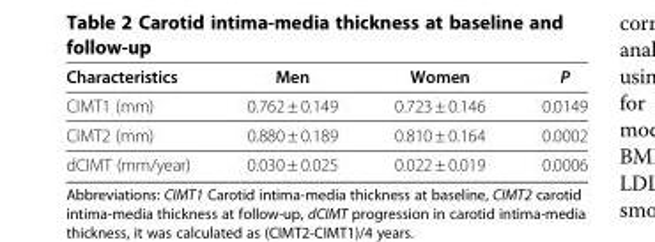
<table><thead><tr><td>Characteristics</td><td>Men</td><td>Women</td><td>P</td></tr></thead><tbody><tr><td>CIMT1 (mm)</td><td>0.762 ± 0.149</td><td>0.723 ± 0.146</td><td>0.0149</td></tr><tr><td>CIMT2 (mm)</td><td>0.880 ± 0.189</td><td>0.810 ± 0.164</td><td>0.0002</td></tr><tr><td>dCIMT (mm/year)</td><td>0.030 ± 0.025</td><td>0.022 ± 0.019</td><td>0.0006</td></tr></tbody></table>